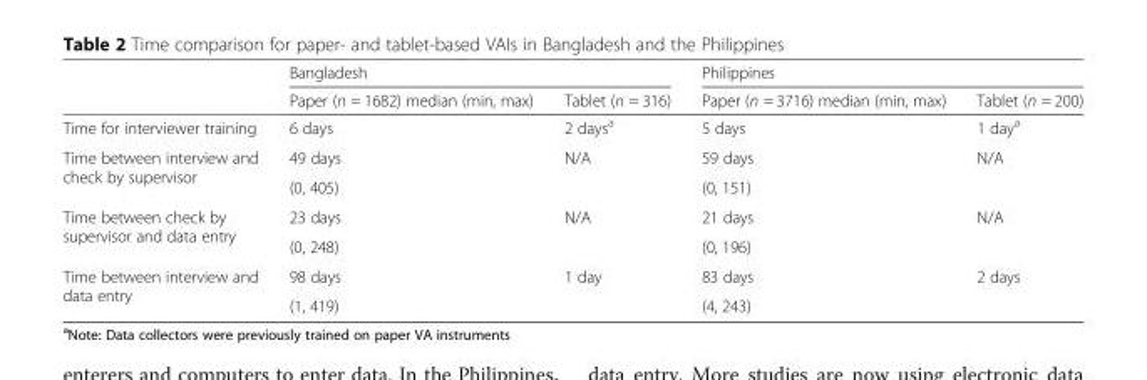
<table><thead><tr><td rowspan="2"></td><td colspan="2">Bangladesh</td><td colspan="2">Philippines</td></tr><tr><td>Paper (n = 1682) median (min, max)</td><td>Tablet (n = 316)</td><td>Paper (n = 3716) median (min, max)</td><td>Tablet (n = 200)</td></tr></thead><tbody><tr><td>Time for interviewer training</td><td>6 days</td><td>2 days<sup>a</sup></td><td>5 days</td><td>1 day<sup>a</sup></td></tr><tr><td rowspan="2">Time between interview and check by supervisor</td><td>49 days</td><td rowspan="2">N/A</td><td>59 days</td><td rowspan="2">N/A</td></tr><tr><td>(0, 405)</td><td>(0, 151)</td></tr><tr><td rowspan="2">Time between check by supervisor and data entry</td><td>23 days</td><td rowspan="2">N/A</td><td>21 days</td><td rowspan="2">N/A</td></tr><tr><td>(0, 248)</td><td>(0, 196)</td></tr><tr><td rowspan="2">Time between interview and data entry</td><td>98 days</td><td rowspan="2">1 day</td><td>83 days</td><td rowspan="2">2 days</td></tr><tr><td>(1, 419)</td><td>(4, 243)</td></tr></tbody></table>